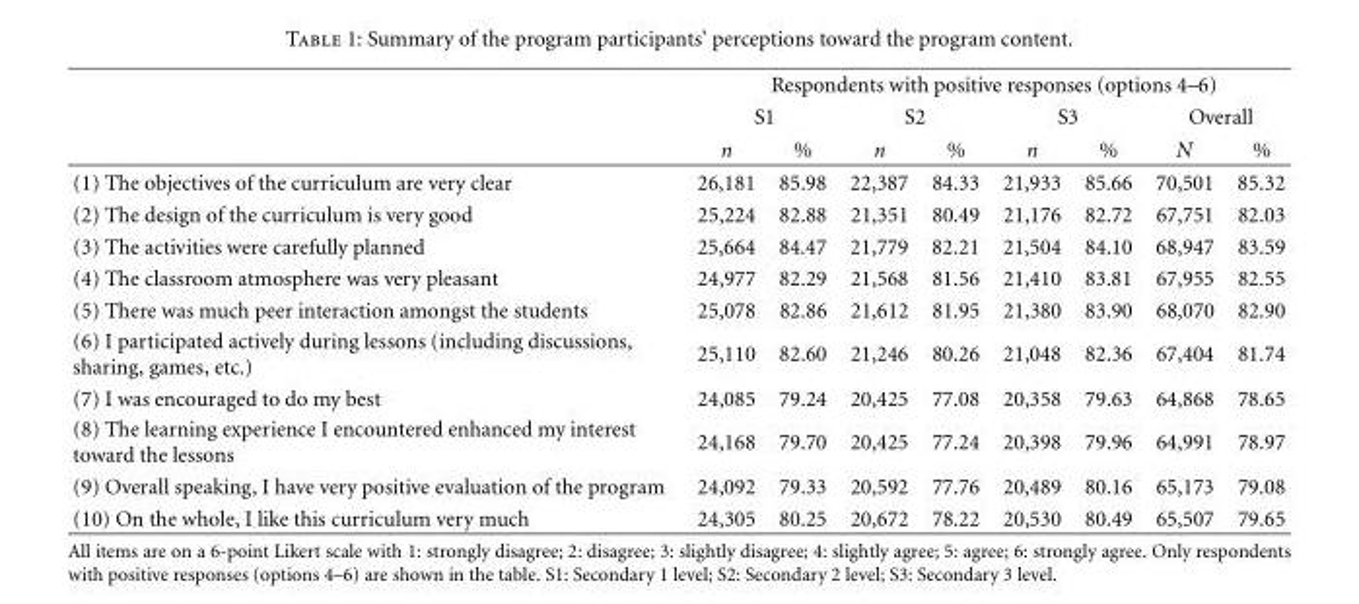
<table><thead><tr><td rowspan="3"></td><td colspan="8">Respondents with positive responses (options 4–6)</td></tr><tr><td colspan="2">S1</td><td colspan="2">S2</td><td colspan="2">S3</td><td colspan="2">Overall</td></tr><tr><td>n</td><td>%</td><td>n</td><td>%</td><td>n</td><td>%</td><td>N</td><td>%</td></tr></thead><tbody><tr><td>(1) The objectives of the curriculum are very clear</td><td>26,181</td><td>85.98</td><td>22,387</td><td>84.33</td><td>21,933</td><td>85.66</td><td>70,501</td><td>85.32</td></tr><tr><td>(2) The design of the curriculum is very good</td><td>25,224</td><td>82.88</td><td>21,351</td><td>80.49</td><td>21,176</td><td>82.72</td><td>67,751</td><td>82.03</td></tr><tr><td>(3) The activities were carefully planned</td><td>25,664</td><td>84.47</td><td>21,779</td><td>82.21</td><td>21,504</td><td>84.10</td><td>68,947</td><td>83.59</td></tr><tr><td>(4) The classroom atmosphere was very pleasant</td><td>24,977</td><td>82.29</td><td>21,568</td><td>81.56</td><td>21,410</td><td>83.81</td><td>67,955</td><td>82.55</td></tr><tr><td>(5) There was much peer interaction amongst the students</td><td>25,078</td><td>82.86</td><td>21,612</td><td>81.95</td><td>21,380</td><td>83.90</td><td>68,070</td><td>82.90</td></tr><tr><td>(6) I participated actively during lessons (including discussions, sharing, games, etc.)</td><td>25,110</td><td>82.60</td><td>21,246</td><td>80.26</td><td>21,048</td><td>82.36</td><td>67,404</td><td>81.74</td></tr><tr><td>(7) I was encouraged to do my best</td><td>24,085</td><td>79.24</td><td>20,425</td><td>77.08</td><td>20,358</td><td>79.63</td><td>64,868</td><td>78.65</td></tr><tr><td>(8) The learning experience I encountered enhanced my interest toward the lessons</td><td>24,168</td><td>79.70</td><td>20,425</td><td>77.24</td><td>20,398</td><td>79.96</td><td>64,991</td><td>78.97</td></tr><tr><td>(9) Overall speaking, I have very positive evaluation of the program</td><td>24,092</td><td>79.33</td><td>20,592</td><td>77.76</td><td>20,489</td><td>80.16</td><td>65,173</td><td>79.08</td></tr><tr><td>(10) On the whole, I like this curriculum very much</td><td>24,305</td><td>80.25</td><td>20,672</td><td>78.22</td><td>20,530</td><td>80.49</td><td>65,507</td><td>79.65</td></tr></tbody></table>